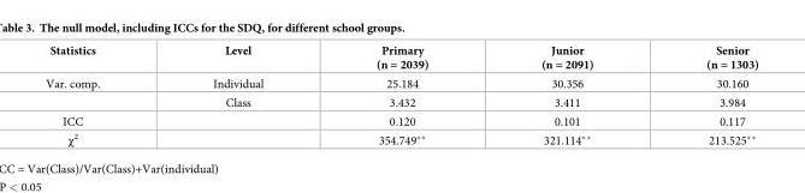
<table><thead><tr><td>Statistics</td><td>Level</td><td>Primary (n = 2039)</td><td>Junior (n = 2091)</td><td>Senior (n = 1303)</td></tr></thead><tbody><tr><td rowspan="2">Var. comp.</td><td>Individual</td><td>25.184</td><td>30.356</td><td>30.160</td></tr><tr><td>Class</td><td>3.432</td><td>3.411</td><td>3.984</td></tr><tr><td>ICC</td><td></td><td>0.120</td><td>0.101</td><td>0.117</td></tr><tr><td>χ<sup>2</sup></td><td></td><td>354.749**</td><td>321.114**</td><td>213.525**</td></tr></tbody></table>